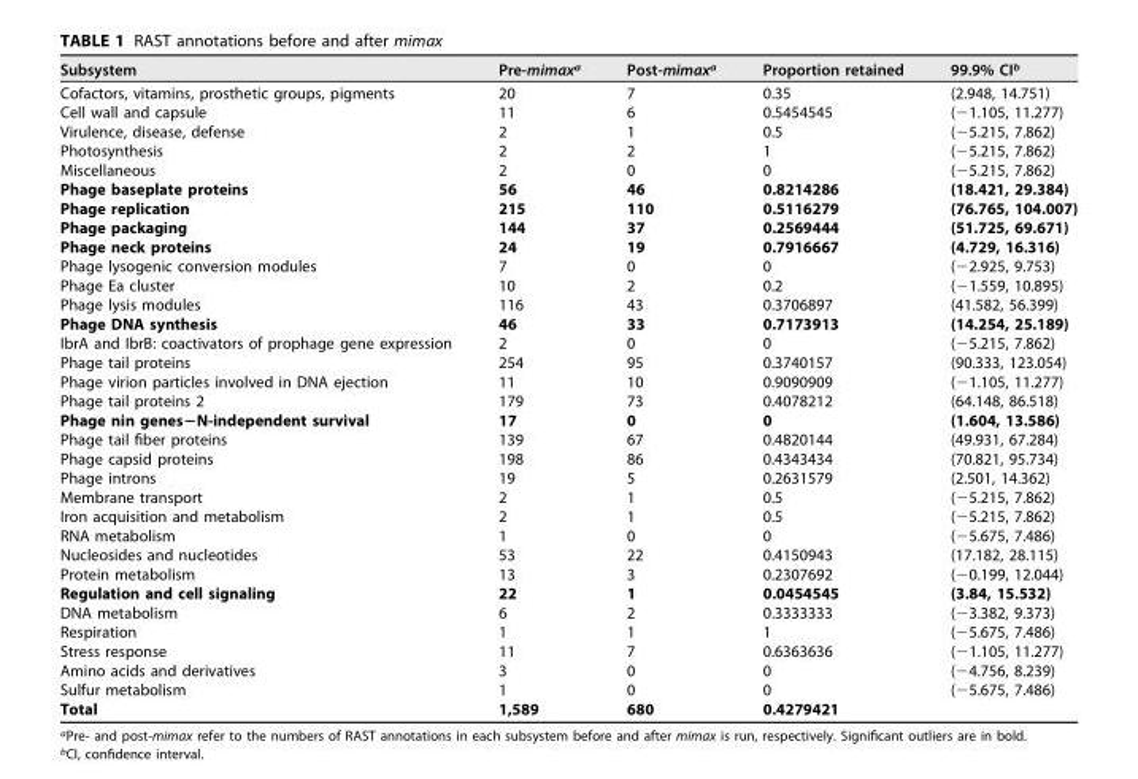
<table><thead><tr><td>Subsystem</td><td>Pre-mimax<sup>a</sup></td><td>Post-mimax<sup>a</sup></td><td>Proportion retained</td><td>99.9% CI<sup>b</sup></td></tr></thead><tbody><tr><td>Cofactors, vitamins, prosthetic groups, pigments</td><td>20</td><td>7</td><td>0.35</td><td>(2.948, 14.751)</td></tr><tr><td>Cell wall and capsule</td><td>11</td><td>6</td><td>0.5454545</td><td>(−1.105, 11.277)</td></tr><tr><td>Virulence, disease, defense</td><td>2</td><td>1</td><td>0.5</td><td>(−5.215, 7.862)</td></tr><tr><td>Photosynthesis</td><td>2</td><td>2</td><td>1</td><td>(−5.215, 7.862)</td></tr><tr><td>Miscellaneous</td><td>2</td><td>0</td><td>0</td><td>(−5.215, 7.862)</td></tr><tr><td>Phage baseplate proteins</td><td>56</td><td>46</td><td>0.8214286</td><td>(18.421, 29.384)</td></tr><tr><td>Phage replication</td><td>215</td><td>110</td><td>0.5116279</td><td>(76.765, 104.007)</td></tr><tr><td>Phage packaging</td><td>144</td><td>37</td><td>0.2569444</td><td>(51.725, 69.671)</td></tr><tr><td>Phage neck proteins</td><td>24</td><td>19</td><td>0.7916667</td><td>(4.729, 16.316)</td></tr><tr><td>Phage lysogenic conversion modules</td><td>7</td><td>0</td><td>0</td><td>(−2.925, 9.753)</td></tr><tr><td>Phage Ea cluster</td><td>10</td><td>2</td><td>0.2</td><td>(−1.559, 10.895)</td></tr><tr><td>Phage lysis modules</td><td>116</td><td>43</td><td>0.3706897</td><td>(41.582, 56.399)</td></tr><tr><td>Phage DNA synthesis</td><td>46</td><td>33</td><td>0.7173913</td><td>(14.254, 25.189)</td></tr><tr><td>IbrA and IbrB: coactivators of prophage gene expression</td><td>2</td><td>0</td><td>0</td><td>(−5.215, 7.862)</td></tr><tr><td>Phage tail proteins</td><td>254</td><td>95</td><td>0.3740157</td><td>(90.333, 123.054)</td></tr><tr><td>Phage virion particles involved in DNA ejection</td><td>11</td><td>10</td><td>0.9090909</td><td>(−1.105, 11.277)</td></tr><tr><td>Phage tail proteins 2</td><td>179</td><td>73</td><td>0.4078212</td><td>(64.148, 86.518)</td></tr><tr><td>Phage nin genes−N-independent survival</td><td>17</td><td>0</td><td>0</td><td>(1.604, 13.586)</td></tr><tr><td>Phage tail fiber proteins</td><td>139</td><td>67</td><td>0.4820144</td><td>(49.931, 67.284)</td></tr><tr><td>Phage capsid proteins</td><td>198</td><td>86</td><td>0.4343434</td><td>(70.821, 95.734)</td></tr><tr><td>Phage introns</td><td>19</td><td>5</td><td>0.2631579</td><td>(2.501, 14.362)</td></tr><tr><td>Membrane transport</td><td>2</td><td>1</td><td>0.5</td><td>(−5.215, 7.862)</td></tr><tr><td>Iron acquisition and metabolism</td><td>2</td><td>1</td><td>0.5</td><td>(−5.215, 7.862)</td></tr><tr><td>RNA metabolism</td><td>1</td><td>0</td><td>0</td><td>(−5.675, 7.486)</td></tr><tr><td>Nucleosides and nucleotides</td><td>53</td><td>22</td><td>0.4150943</td><td>(17.182, 28.115)</td></tr><tr><td>Protein metabolism</td><td>13</td><td>3</td><td>0.2307692</td><td>(−0.199, 12.044)</td></tr><tr><td>Regulation and cell signaling</td><td>22</td><td>1</td><td>0.0454545</td><td>(3.84, 15.532)</td></tr><tr><td>DNA metabolism</td><td>6</td><td>2</td><td>0.3333333</td><td>(−3.382, 9.373)</td></tr><tr><td>Respiration</td><td>1</td><td>1</td><td>1</td><td>(−5.675, 7.486)</td></tr><tr><td>Stress response</td><td>11</td><td>7</td><td>0.6363636</td><td>(−1.105, 11.277)</td></tr><tr><td>Amino acids and derivatives</td><td>3</td><td>0</td><td>0</td><td>(−4.756, 8.239)</td></tr><tr><td>Sulfur metabolism</td><td>1</td><td>0</td><td>0</td><td>(−5.675, 7.486)</td></tr><tr><td>Total</td><td>1,589</td><td>680</td><td>0.4279421</td><td></td></tr></tbody></table>